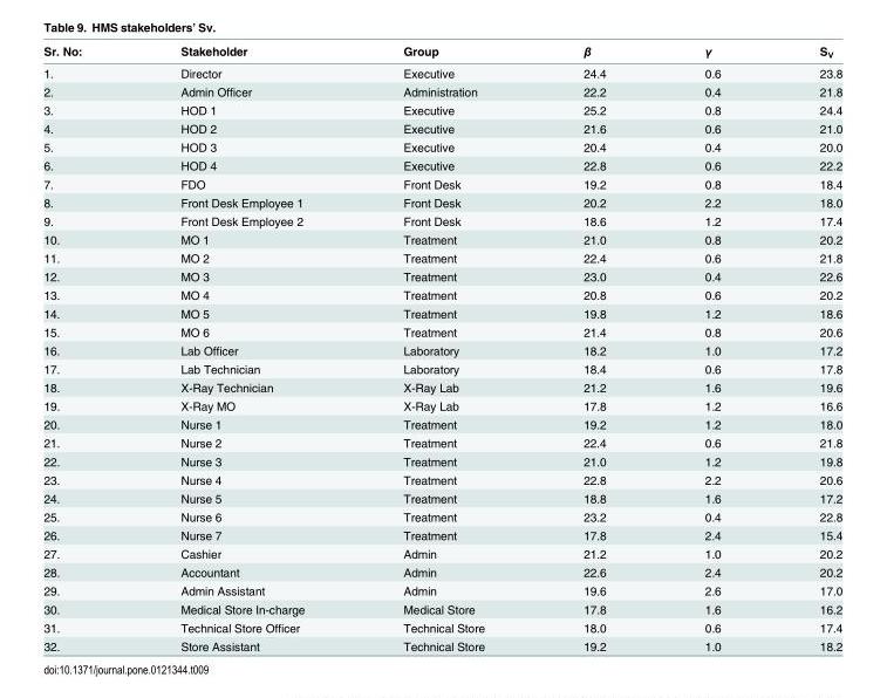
<table><thead><tr><td>Sr. No:</td><td>Stakeholder</td><td>Group</td><td>β</td><td>γ</td><td>S<sub>V</sub></td></tr></thead><tbody><tr><td>1.</td><td>Director</td><td>Executive</td><td>24.4</td><td>0.6</td><td>23.8</td></tr><tr><td>2.</td><td>Admin Officer</td><td>Administration</td><td>22.2</td><td>0.4</td><td>21.8</td></tr><tr><td>3.</td><td>HOD 1</td><td>Executive</td><td>25.2</td><td>0.8</td><td>24.4</td></tr><tr><td>4.</td><td>HOD 2</td><td>Executive</td><td>21.6</td><td>0.6</td><td>21.0</td></tr><tr><td>5.</td><td>HOD 3</td><td>Executive</td><td>20.4</td><td>0.4</td><td>20.0</td></tr><tr><td>6.</td><td>HOD 4</td><td>Executive</td><td>22.8</td><td>0.6</td><td>22.2</td></tr><tr><td>7.</td><td>FDO</td><td>Front Desk</td><td>19.2</td><td>0.8</td><td>18.4</td></tr><tr><td>8.</td><td>Front Desk Employee 1</td><td>Front Desk</td><td>20.2</td><td>2.2</td><td>18.0</td></tr><tr><td>9.</td><td>Front Desk Employee 2</td><td>Front Desk</td><td>18.6</td><td>1.2</td><td>17.4</td></tr><tr><td>10.</td><td>MO 1</td><td>Treatment</td><td>21.0</td><td>0.8</td><td>20.2</td></tr><tr><td>11.</td><td>MO 2</td><td>Treatment</td><td>22.4</td><td>0.6</td><td>21.8</td></tr><tr><td>12.</td><td>MO 3</td><td>Treatment</td><td>23.0</td><td>0.4</td><td>22.6</td></tr><tr><td>13.</td><td>MO 4</td><td>Treatment</td><td>20.8</td><td>0.6</td><td>20.2</td></tr><tr><td>14.</td><td>MO 5</td><td>Treatment</td><td>19.8</td><td>1.2</td><td>18.6</td></tr><tr><td>15.</td><td>MO 6</td><td>Treatment</td><td>21.4</td><td>0.8</td><td>20.6</td></tr><tr><td>16.</td><td>Lab Officer</td><td>Laboratory</td><td>18.2</td><td>1.0</td><td>17.2</td></tr><tr><td>17.</td><td>Lab Technician</td><td>Laboratory</td><td>18.4</td><td>0.6</td><td>17.8</td></tr><tr><td>18.</td><td>X-Ray Technician</td><td>X-Ray Lab</td><td>21.2</td><td>1.6</td><td>19.6</td></tr><tr><td>19.</td><td>X-Ray MO</td><td>X-Ray Lab</td><td>17.8</td><td>1.2</td><td>16.6</td></tr><tr><td>20.</td><td>Nurse 1</td><td>Treatment</td><td>19.2</td><td>1.2</td><td>18.0</td></tr><tr><td>21.</td><td>Nurse 2</td><td>Treatment</td><td>22.4</td><td>0.6</td><td>21.8</td></tr><tr><td>22.</td><td>Nurse 3</td><td>Treatment</td><td>21.0</td><td>1.2</td><td>19.8</td></tr><tr><td>23.</td><td>Nurse 4</td><td>Treatment</td><td>22.8</td><td>2.2</td><td>20.6</td></tr><tr><td>24.</td><td>Nurse 5</td><td>Treatment</td><td>18.8</td><td>1.6</td><td>17.2</td></tr><tr><td>25.</td><td>Nurse 6</td><td>Treatment</td><td>23.2</td><td>0.4</td><td>22.8</td></tr><tr><td>26.</td><td>Nurse 7</td><td>Treatment</td><td>17.8</td><td>2.4</td><td>15.4</td></tr><tr><td>27.</td><td>Cashier</td><td>Admin</td><td>21.2</td><td>1.0</td><td>20.2</td></tr><tr><td>28.</td><td>Accountant</td><td>Admin</td><td>22.6</td><td>2.4</td><td>20.2</td></tr><tr><td>29.</td><td>Admin Assistant</td><td>Admin</td><td>19.6</td><td>2.6</td><td>17.0</td></tr><tr><td>30.</td><td>Medical Store In-charge</td><td>Medical Store</td><td>17.8</td><td>1.6</td><td>16.2</td></tr><tr><td>31.</td><td>Technical Store Officer</td><td>Technical Store</td><td>18.0</td><td>0.6</td><td>17.4</td></tr><tr><td>32.</td><td>Store Assistant</td><td>Technical Store</td><td>19.2</td><td>1.0</td><td>18.2</td></tr></tbody></table>